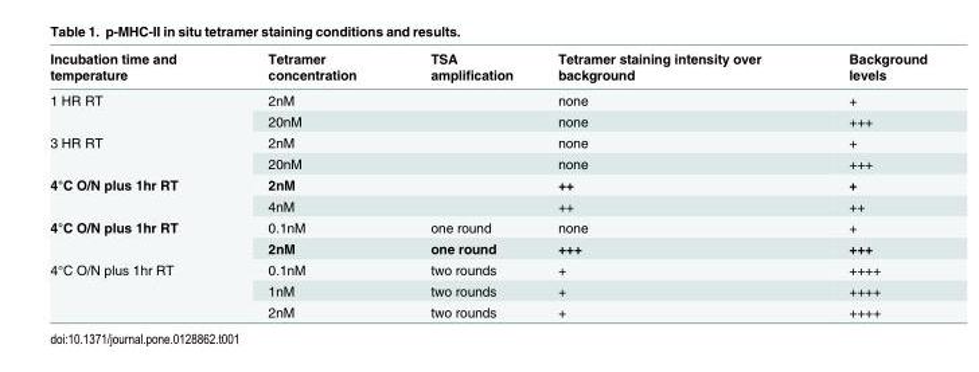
<table><thead><tr><td>Incubation time and temperature</td><td>Tetramer concentration</td><td>TSA amplification</td><td>Tetramer staining intensity over background</td><td>Background levels</td></tr></thead><tbody><tr><td rowspan="2">1 HR RT</td><td>2nM</td><td></td><td>none</td><td>+</td></tr><tr><td>20nM</td><td></td><td>none</td><td>+++</td></tr><tr><td rowspan="2">3 HR RT</td><td>2nM</td><td></td><td>none</td><td>+</td></tr><tr><td>20nM</td><td></td><td>none</td><td>+++</td></tr><tr><td rowspan="2">4°C O/N plus 1hr RT</td><td>2nM</td><td></td><td>++</td><td>+</td></tr><tr><td>4nM</td><td></td><td>++</td><td>++</td></tr><tr><td rowspan="2">4°C O/N plus 1hr RT</td><td>0.1nM</td><td>one round</td><td>none</td><td>+</td></tr><tr><td>2nM</td><td>one round</td><td>+++</td><td>+++</td></tr><tr><td rowspan="3">4°C O/N plus 1hr RT</td><td>0.1nM</td><td>two rounds</td><td>+</td><td>++++</td></tr><tr><td>1nM</td><td>two rounds</td><td>+</td><td>++++</td></tr><tr><td>2nM</td><td>two rounds</td><td>+</td><td>++++</td></tr></tbody></table>